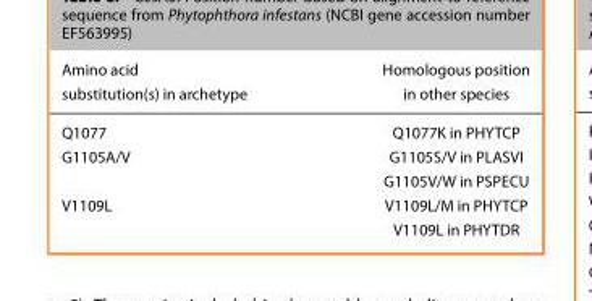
<table><thead><tr><td>Amino acid substitution(s) in archetype</td><td>Homologous position in other species</td></tr></thead><tbody><tr><td>Q1077</td><td>Q1077K in PHYTCP</td></tr><tr><td rowspan="2">G1105A/V</td><td>G1105S/V in PLASVI</td></tr><tr><td>G1105V/W in PSPECU</td></tr><tr><td rowspan="2">V1109L</td><td>V1109L/M in PHYTCP</td></tr><tr><td>V1109L in PHYTDR</td></tr></tbody></table>